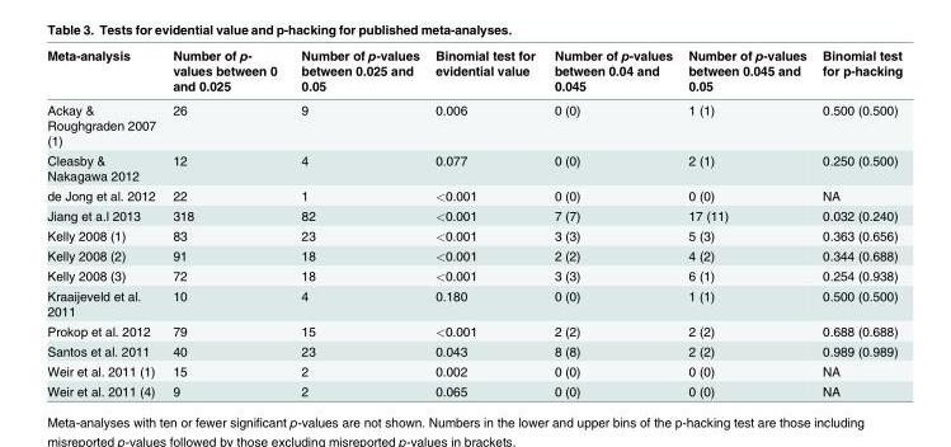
<table><thead><tr><td>Meta-analysis</td><td>Number of p- values between 0 and 0.025</td><td>Number of p-values between 0.025 and 0.05</td><td>Binomial test for evidential value</td><td>Number of p-values between 0.04 and 0.045</td><td>Number of p-values between 0.045 and 0.05</td><td>Binomial test for p-hacking</td></tr></thead><tbody><tr><td>Ackay &amp; Roughgraden 2007 (1)</td><td>26</td><td>9</td><td>0.006</td><td>0 (0)</td><td>1 (1)</td><td>0.500 (0.500)</td></tr><tr><td>Cleasby &amp; Nakagawa 2012</td><td>12</td><td>4</td><td>0.077</td><td>0 (0)</td><td>2 (1)</td><td>0.250 (0.500)</td></tr><tr><td>de Jong et al. 2012</td><td>22</td><td>1</td><td>&lt;0.001</td><td>0 (0)</td><td>0 (0)</td><td>NA</td></tr><tr><td>Jiang et a.l 2013</td><td>318</td><td>82</td><td>&lt;0.001</td><td>7 (7)</td><td>17 (11)</td><td>0.032 (0.240)</td></tr><tr><td>Kelly 2008 (1)</td><td>83</td><td>23</td><td>&lt;0.001</td><td>3 (3)</td><td>5 (3)</td><td>0.363 (0.656)</td></tr><tr><td>Kelly 2008 (2)</td><td>91</td><td>18</td><td>&lt;0.001</td><td>2 (2)</td><td>4 (2)</td><td>0.344 (0.688)</td></tr><tr><td>Kelly 2008 (3)</td><td>72</td><td>18</td><td>&lt;0.001</td><td>3 (3)</td><td>6 (1)</td><td>0.254 (0.938)</td></tr><tr><td>Kraaijeveld et al. 2011</td><td>10</td><td>4</td><td>0.180</td><td>0 (0)</td><td>1 (1)</td><td>0.500 (0.500)</td></tr><tr><td>Prokop et al. 2012</td><td>79</td><td>15</td><td>&lt;0.001</td><td>2 (2)</td><td>2 (2)</td><td>0.688 (0.688)</td></tr><tr><td>Santos et al. 2011</td><td>40</td><td>23</td><td>0.043</td><td>8 (8)</td><td>2 (2)</td><td>0.989 (0.989)</td></tr><tr><td>Weir et al. 2011 (1)</td><td>15</td><td>2</td><td>0.002</td><td>0 (0)</td><td>0 (0)</td><td>NA</td></tr><tr><td>Weir et al. 2011 (4)</td><td>9</td><td>2</td><td>0.065</td><td>0 (0)</td><td>0 (0)</td><td>NA</td></tr></tbody></table>